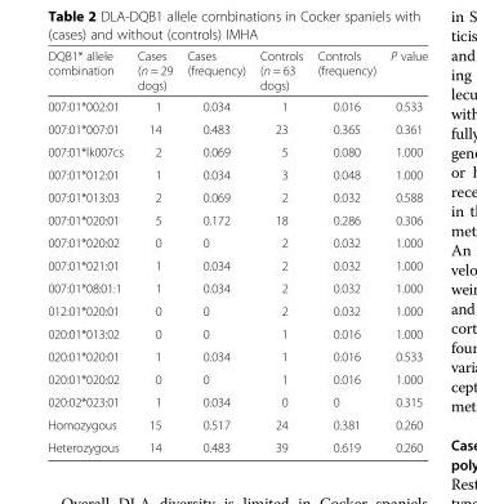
<table><thead><tr><td>DQB1* allele combination</td><td>Cases (n = 29 dogs)</td><td>Cases (frequency)</td><td>Controls (n = 63 dogs)</td><td>Controls (frequency)</td><td>P value</td></tr></thead><tbody><tr><td>007:01*002:01</td><td>1</td><td>0.034</td><td>1</td><td>0.016</td><td>0.533</td></tr><tr><td>007:01*007:01</td><td>14</td><td>0.483</td><td>23</td><td>0.365</td><td>0.361</td></tr><tr><td>007:01*lk007cs</td><td>2</td><td>0.069</td><td>5</td><td>0.080</td><td>1.000</td></tr><tr><td>007:01*012:01</td><td>1</td><td>0.034</td><td>3</td><td>0.048</td><td>1.000</td></tr><tr><td>007:01*013:03</td><td>2</td><td>0.069</td><td>2</td><td>0.032</td><td>0.588</td></tr><tr><td>007:01*020:01</td><td>5</td><td>0.172</td><td>18</td><td>0.286</td><td>0.306</td></tr><tr><td>007:01*020:02</td><td>0</td><td>0</td><td>2</td><td>0.032</td><td>1.000</td></tr><tr><td>007:01*021:01</td><td>1</td><td>0.034</td><td>2</td><td>0.032</td><td>1.000</td></tr><tr><td>007:01*08:01:1</td><td>1</td><td>0.034</td><td>2</td><td>0.032</td><td>1.000</td></tr><tr><td>012:01*020:01</td><td>0</td><td>0</td><td>2</td><td>0.032</td><td>1.000</td></tr><tr><td>020:01*013:02</td><td>0</td><td>0</td><td>1</td><td>0.016</td><td>1.000</td></tr><tr><td>020:01*020:01</td><td>1</td><td>0.034</td><td>1</td><td>0.016</td><td>0.533</td></tr><tr><td>020:01*020:02</td><td>0</td><td>0</td><td>1</td><td>0.016</td><td>1.000</td></tr><tr><td>020:02*023:01</td><td>1</td><td>0.034</td><td>0</td><td>0</td><td>0.315</td></tr><tr><td>Homozygous</td><td>15</td><td>0.517</td><td>24</td><td>0.381</td><td>0.260</td></tr><tr><td>Heterozygous</td><td>14</td><td>0.483</td><td>39</td><td>0.619</td><td>0.260</td></tr></tbody></table>